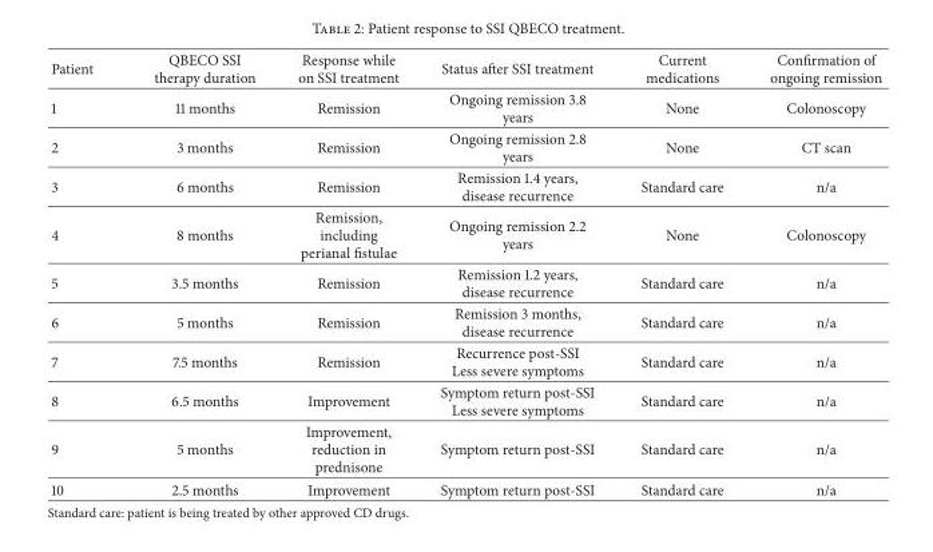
<table><thead><tr><td>Patient</td><td>QBECO SSI therapy duration</td><td>Response while on SSI treatment</td><td>Status after SSI treatment</td><td>Current medications</td><td>Confirmation of ongoing remission</td></tr></thead><tbody><tr><td>1</td><td>11 months</td><td>Remission</td><td>Ongoing remission 3.8 years</td><td>None</td><td>Colonoscopy</td></tr><tr><td>2</td><td>3 months</td><td>Remission</td><td>Ongoing remission 2.8 years</td><td>None</td><td>CT scan</td></tr><tr><td>3</td><td>6 months</td><td>Remission</td><td>Remission 1.4 years, disease recurrence</td><td>Standard care</td><td>n/a</td></tr><tr><td>4</td><td>8 months</td><td>Remission, including perianal fistulae</td><td>Ongoing remission 2.2 years</td><td>None</td><td>Colonoscopy</td></tr><tr><td>5</td><td>3.5 months</td><td>Remission</td><td>Remission 1.2 years, disease recurrence</td><td>Standard care</td><td>n/a</td></tr><tr><td>6</td><td>5 months</td><td>Remission</td><td>Remission 3 months, disease recurrence</td><td>Standard care</td><td>n/a</td></tr><tr><td>7</td><td>7.5 months</td><td>Remission</td><td>Recurrence post-SSI Less severe symptoms</td><td>Standard care</td><td>n/a</td></tr><tr><td>8</td><td>6.5 months</td><td>Improvement</td><td>Symptom return post-SSI Less severe symptoms</td><td>Standard care</td><td>n/a</td></tr><tr><td>9</td><td>5 months</td><td>Improvement, reduction in prednisone</td><td>Symptom return post-SSI</td><td>Standard care</td><td>n/a</td></tr><tr><td>10</td><td>2.5 months</td><td>Improvement</td><td>Symptom return post-SSI</td><td>Standard care</td><td>n/a</td></tr></tbody></table>